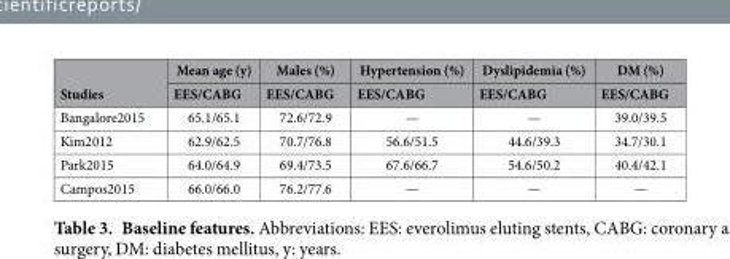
<table><thead><tr><td rowspan="2">Studies</td><td rowspan="2">Mean age (y) EES/CABG</td><td rowspan="2">Males (%) EES/CABG</td><td rowspan="2">Hypertension (%) EES/CABG</td><td rowspan="2">Dyslipidemia (%) EES/CABG</td><td rowspan="2">DM (%) EES/CABG</td></tr><tr></tr></thead><tbody><tr><td>Bangalore2015</td><td>65.1/65.1</td><td>72.6/72.9</td><td>—</td><td>—</td><td>39.0/39.5</td></tr><tr><td>Kim2012</td><td>62.9/62.5</td><td>70.7/76.8</td><td>56.6/51.5</td><td>44.6/39.3</td><td>34.7/30.1</td></tr><tr><td>Park2015</td><td>64.0/64.9</td><td>69.4/73.5</td><td>67.6/66.7</td><td>54.6/50.2</td><td>40.4/42.1</td></tr><tr><td>Campos2015</td><td>66.0/66.0</td><td>76.2/77.6</td><td>—</td><td>—</td><td>—</td></tr></tbody></table>